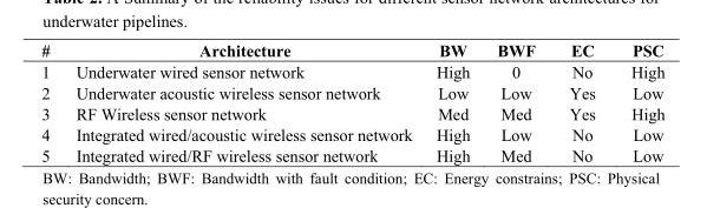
<table><thead><tr><td>#</td><td>Architecture</td><td>BW</td><td>BWF</td><td>EC</td><td>PSC</td></tr></thead><tbody><tr><td>1</td><td>Underwater wired sensor network</td><td>High</td><td>0</td><td>No</td><td>High</td></tr><tr><td>2</td><td>Underwater acoustic wireless sensor network</td><td>Low</td><td>Low</td><td>Yes</td><td>Low</td></tr><tr><td>3</td><td>RF Wireless sensor network</td><td>Med</td><td>Med</td><td>Yes</td><td>High</td></tr><tr><td>4</td><td>Integrated wired/acoustic wireless sensor network</td><td>High</td><td>Low</td><td>No</td><td>Low</td></tr><tr><td>5</td><td>Integrated wired/RF wireless sensor network</td><td>High</td><td>Med</td><td>No</td><td>Low</td></tr></tbody></table>